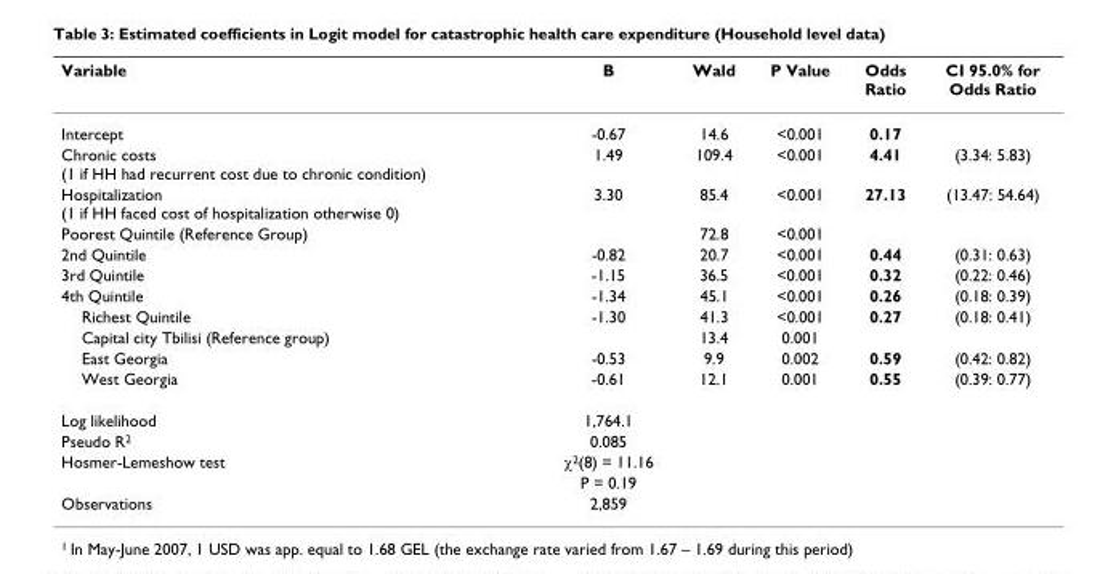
<table><thead><tr><td>Variable</td><td>B</td><td>Wald</td><td>P Value</td><td>Odds Ratio</td><td>CI 95.0% for Odds Ratio</td></tr></thead><tbody><tr><td>Intercept</td><td>-0.67</td><td>14.6</td><td>&lt;0.001</td><td>0.17</td><td></td></tr><tr><td>Chronic costs (1 if HH had recurrent cost due to chronic condition)</td><td>1.49</td><td>109.4</td><td>&lt;0.001</td><td>4.41</td><td>(3.34: 5.83)</td></tr><tr><td>Hospitalization (1 if HH faced cost of hospitalization otherwise 0)</td><td>3.30</td><td>85.4</td><td>&lt;0.001</td><td>27.13</td><td>(13.47: 54.64)</td></tr><tr><td>Poorest Quintile (Reference Group)</td><td></td><td>72.8</td><td>&lt;0.001</td><td></td><td></td></tr><tr><td>2nd Quintile</td><td>-0.82</td><td>20.7</td><td>&lt;0.001</td><td>0.44</td><td>(0.31: 0.63)</td></tr><tr><td>3rd Quintile</td><td>-1.15</td><td>36.5</td><td>&lt;0.001</td><td>0.32</td><td>(0.22: 0.46)</td></tr><tr><td>4th Quintile</td><td>-1.34</td><td>45.1</td><td>&lt;0.001</td><td>0.26</td><td>(0.18: 0.39)</td></tr><tr><td>Richest Quintile</td><td>-1.30</td><td>41.3</td><td>&lt;0.001</td><td>0.27</td><td>(0.18: 0.41)</td></tr><tr><td>Capital city Tbilisi (Reference group)</td><td></td><td>13.4</td><td>0.001</td><td></td><td></td></tr><tr><td>East Georgia</td><td>-0.53</td><td>9.9</td><td>0.002</td><td>0.59</td><td>(0.42: 0.82)</td></tr><tr><td>West Georgia</td><td>-0.61</td><td>12.1</td><td>0.001</td><td>0.55</td><td>(0.39: 0.77)</td></tr><tr><td>Log likelihood</td><td>1,764.1</td><td></td><td></td><td></td><td></td></tr><tr><td>Pseudo R<sup>2</sup></td><td>0.085</td><td></td><td></td><td></td><td></td></tr><tr><td rowspan="2">Hosmer-Lemeshow test</td><td>χ<sup>2</sup>(8) = 11.16</td><td></td><td></td><td></td><td></td></tr><tr><td>P = 0.19</td><td></td><td></td><td></td><td></td></tr><tr><td>Observations</td><td>2,859</td><td></td><td></td><td></td><td></td></tr></tbody></table>